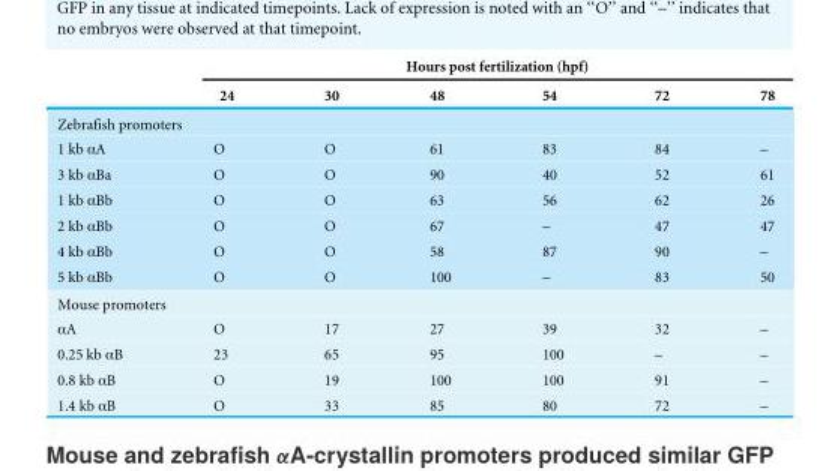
<table><thead><tr><td rowspan="2"></td><td colspan="6">Hours post fertilization (hpf)</td></tr><tr><td>24</td><td>30</td><td>48</td><td>54</td><td>72</td><td>78</td></tr></thead><tbody><tr><td colspan="7">Zebrafish promoters</td></tr><tr><td>1 kb αA</td><td>O</td><td>O</td><td>61</td><td>83</td><td>84</td><td>–</td></tr><tr><td>3 kb αBa</td><td>O</td><td>O</td><td>90</td><td>40</td><td>52</td><td>61</td></tr><tr><td>1 kb αBb</td><td>O</td><td>O</td><td>63</td><td>56</td><td>62</td><td>26</td></tr><tr><td>2 kb αBb</td><td>O</td><td>O</td><td>67</td><td>–</td><td>47</td><td>47</td></tr><tr><td>4 kb αBb</td><td>O</td><td>O</td><td>58</td><td>87</td><td>90</td><td>–</td></tr><tr><td>5 kb αBb</td><td>O</td><td>O</td><td>100</td><td>–</td><td>83</td><td>50</td></tr><tr><td colspan="7">Mouse promoters</td></tr><tr><td>αA</td><td>O</td><td>17</td><td>27</td><td>39</td><td>32</td><td>–</td></tr><tr><td>0.25 kb αB</td><td>23</td><td>65</td><td>95</td><td>100</td><td>–</td><td>–</td></tr><tr><td>0.8 kb αB</td><td>O</td><td>19</td><td>100</td><td>100</td><td>91</td><td>–</td></tr><tr><td>1.4 kb αB</td><td>O</td><td>33</td><td>85</td><td>80</td><td>72</td><td>–</td></tr></tbody></table>